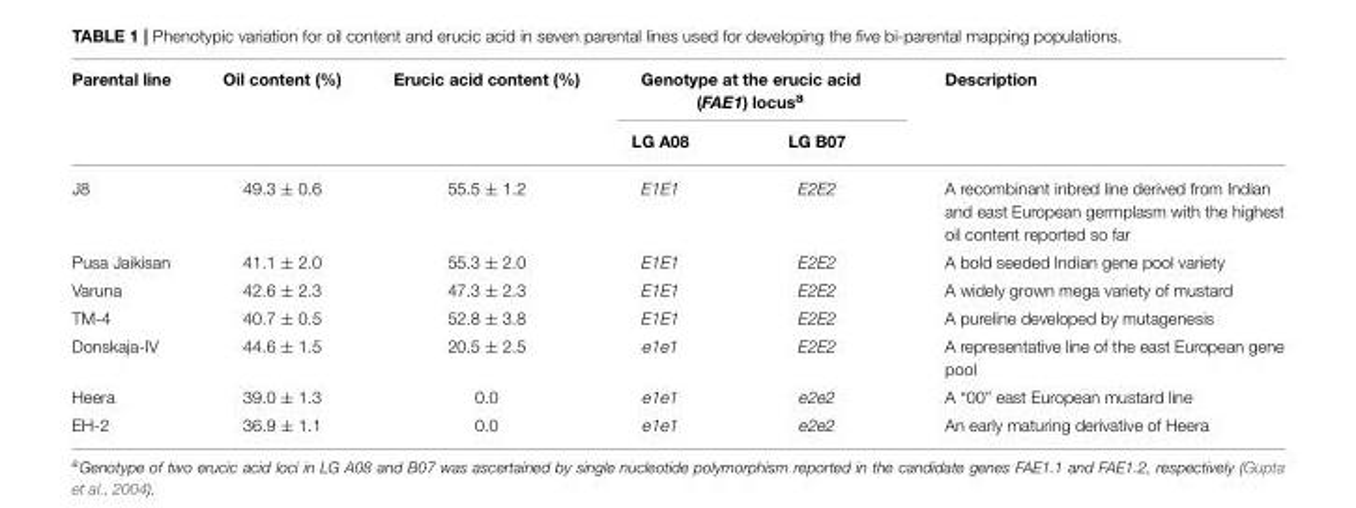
<table><thead><tr><td rowspan="2">Parental line</td><td rowspan="2">Oil content (%)</td><td rowspan="2">Erucic acid content (%)</td><td colspan="2">Genotype at the erucic acid (FAE1) locus<sup>a</sup></td><td rowspan="2">Description</td></tr><tr><td>LG A08</td><td>LG B07</td></tr></thead><tbody><tr><td>J8</td><td>49.3 ± 0.6</td><td>55.5 ± 1.2</td><td>E1E1</td><td>E2E2</td><td>A recombinant inbred line derived from Indian and east European germplasm with the highest oil content reported so far</td></tr><tr><td>Pusa Jaikisan</td><td>41.1 ± 2.0</td><td>55.3 ± 2.0</td><td>E1E1</td><td>E2E2</td><td>A bold seeded Indian gene pool variety</td></tr><tr><td>Varuna</td><td>42.6 ± 2.3</td><td>47.3 ± 2.3</td><td>E1E1</td><td>E2E2</td><td>A widely grown mega variety of mustard</td></tr><tr><td>TM-4</td><td>40.7 ± 0.5</td><td>52.8 ± 3.8</td><td>E1E1</td><td>E2E2</td><td>A pureline developed by mutagenesis</td></tr><tr><td>Donskaja-IV</td><td>44.6 ± 1.5</td><td>20.5 ± 2.5</td><td>e1e1</td><td>E2E2</td><td>A representative line of the east European gene pool</td></tr><tr><td>Heera</td><td>39.0 ± 1.3</td><td>0.0</td><td>e1e1</td><td>e2e2</td><td>A “00” east European mustard line</td></tr><tr><td>EH-2</td><td>36.9 ± 1.1</td><td>0.0</td><td>e1e1</td><td>e2e2</td><td>An early maturing derivative of Heera</td></tr></tbody></table>